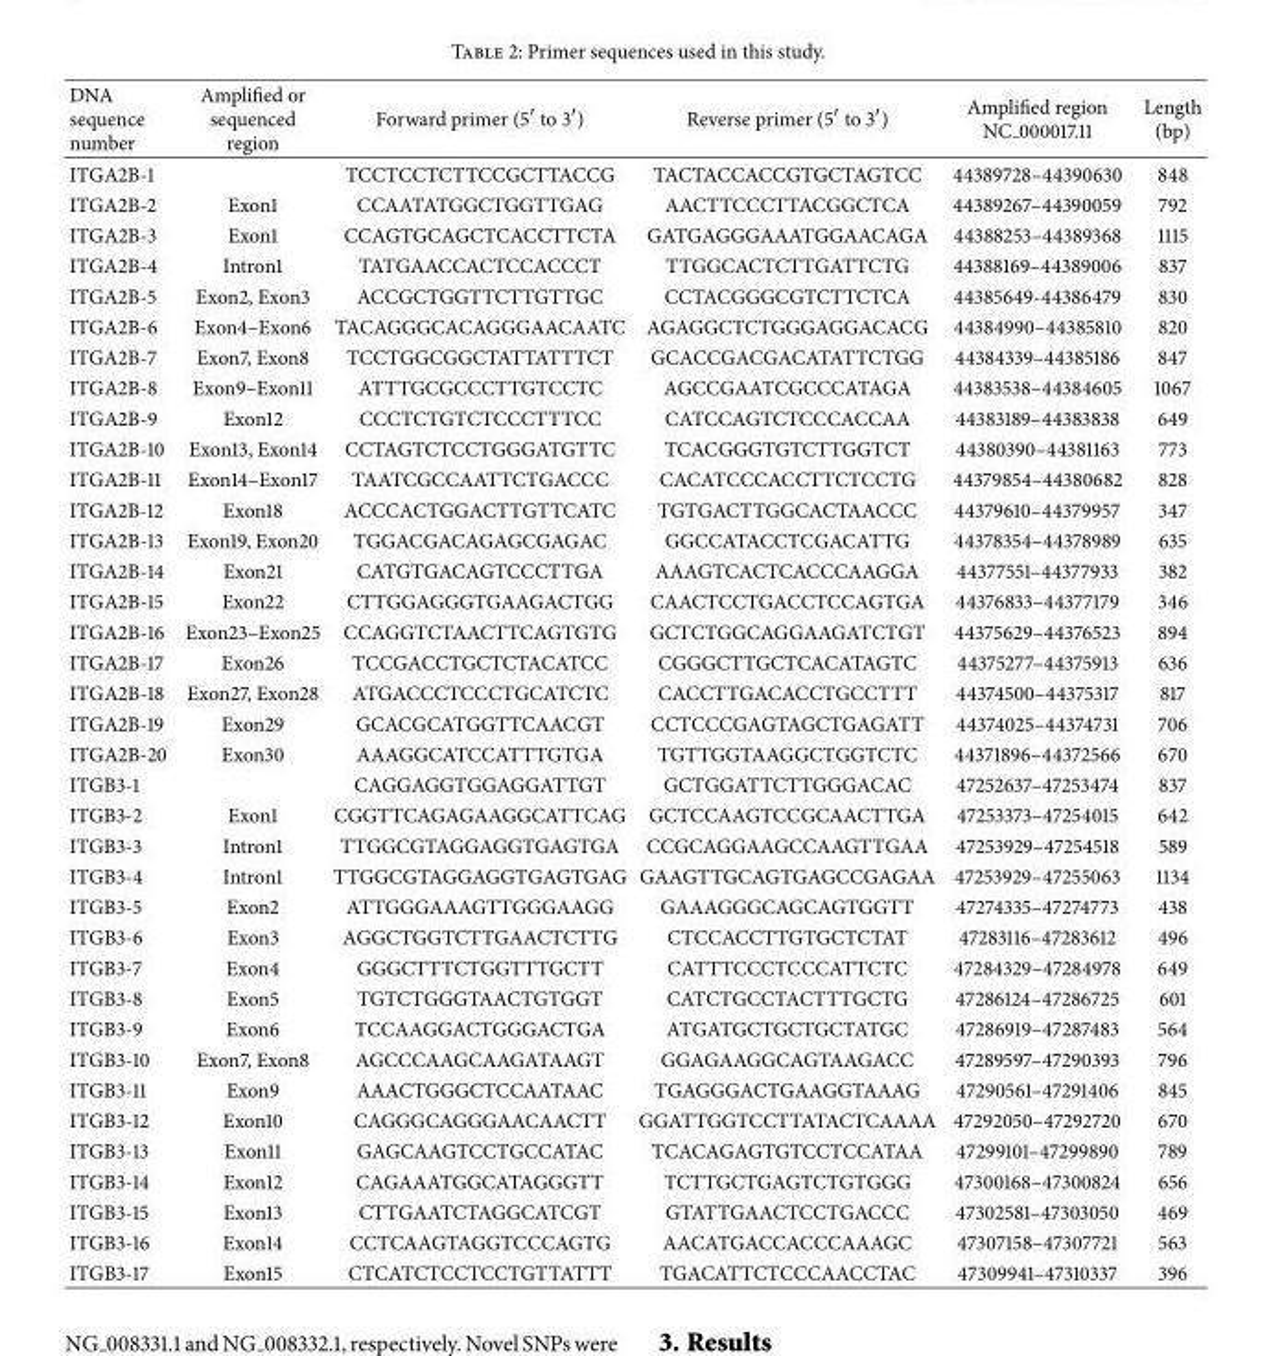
<table><thead><tr><td>DNA sequence number</td><td>Amplified or sequenced region</td><td>Forward primer (5′ to 3′)</td><td>Reverse primer (5′ to 3′)</td><td>Amplified region NC 000017.11</td><td>Length (bp)</td></tr></thead><tbody><tr><td>ITGA2B-1</td><td></td><td>TCCTCCTCTTCCGCTTACCG</td><td>TACTACCACCGTGCTAGTCC</td><td>44389728–44390630</td><td>848</td></tr><tr><td>ITGA2B-2</td><td>Exon1</td><td>CCAATATGGCTGGTTGAG</td><td>AACTTCCCTTACGGCTCA</td><td>44389267–44390059</td><td>792</td></tr><tr><td>ITGA2B-3</td><td>Exon1</td><td>CCAGTGCAGCTCACCTTCTA</td><td>GATGAGGGAAATGGAACAGA</td><td>44388253–44389368</td><td>1115</td></tr><tr><td>ITGA2B-4</td><td>Intron1</td><td>TATGAACCACTCCACCCT</td><td>TTGGCACTCTTGATTCTG</td><td>44388169–44389006</td><td>837</td></tr><tr><td>ITGA2B-5</td><td>Exon2, Exon3</td><td>ACCGCTGGTTCTTGTTGC</td><td>CCTACGGGCGTCTTCTCA</td><td>44385649-44386479</td><td>830</td></tr><tr><td>ITGA2B-6</td><td>Exon4–Exon6</td><td>TACAGGGCACAGGGAACAATC</td><td>AGAGGCTCTGGGAGGACACG</td><td>44384990–44385810</td><td>820</td></tr><tr><td>ITGA2B-7</td><td>Exon7, Exon8</td><td>TCCTGGCGGCTATTATTTCT</td><td>GCACCGACGACATATTCTGG</td><td>44384339–44385186</td><td>847</td></tr><tr><td>ITGA2B-8</td><td>Exon9–Exon11</td><td>ATTTGCGCCCTTGTCCTC</td><td>AGCCGAATCGCCCATAGA</td><td>44383538–44384605</td><td>1067</td></tr><tr><td>ITGA2B-9</td><td>Exon12</td><td>CCCTCTGTCTCCCTTTCC</td><td>CATCCAGTCTCCCACCAA</td><td>44383189–44383838</td><td>649</td></tr><tr><td>ITGA2B-10</td><td>Exon13, Exon14</td><td>CCTAGTCTCCTGGGATGTTC</td><td>TCACGGGTGTCTTGGTCT</td><td>44380390–44381163</td><td>773</td></tr><tr><td>ITGA2B-11</td><td>Exon14–Exon17</td><td>TAATCGCCAATTCTGACCC</td><td>CACATCCCACCTTCTCCTG</td><td>44379854–44380682</td><td>828</td></tr><tr><td>ITGA2B-12</td><td>Exon18</td><td>ACCCACTGGACTTGTTCATC</td><td>TGTGACTTGGCACTAACCC</td><td>44379610–44379957</td><td>347</td></tr><tr><td>ITGA2B-13</td><td>Exon19, Exon20</td><td>TGGACGACAGAGCGAGAC</td><td>GGCCATACCTCGACATTG</td><td>44378354–44378989</td><td>635</td></tr><tr><td>ITGA2B-14</td><td>Exon21</td><td>CATGTGACAGTCCCTTGA</td><td>AAAGTCACTCACCCAAGGA</td><td>44377551–44377933</td><td>382</td></tr><tr><td>ITGA2B-15</td><td>Exon22</td><td>CTTGGAGGGTGAAGACTGG</td><td>CAACTCCTGACCTCCAGTGA</td><td>44376833–44377179</td><td>346</td></tr><tr><td>ITGA2B-16</td><td>Exon23–Exon25</td><td>CCAGGTCTAACTTCAGTGTG</td><td>GCTCTGGCAGGAAGATCTGT</td><td>44375629–44376523</td><td>894</td></tr><tr><td>ITGA2B-17</td><td>Exon26</td><td>TCCGACCTGCTCTACATCC</td><td>CGGGCTTGCTCACATAGTC</td><td>44375277–44375913</td><td>636</td></tr><tr><td>ITGA2B-18</td><td>Exon27, Exon28</td><td>ATGACCCTCCCTGCATCTC</td><td>CACCTTGACACCTGCCTTT</td><td>44374500–44375317</td><td>817</td></tr><tr><td>ITGA2B-19</td><td>Exon29</td><td>GCACGCATGGTTCAACGT</td><td>CCTCCCGAGTAGCTGAGATT</td><td>44374025–44374731</td><td>706</td></tr><tr><td>ITGA2B-20</td><td>Exon30</td><td>AAAGGCATCCATTTGTGA</td><td>TGTTGGTAAGGCTGGTCTC</td><td>44371896–44372566</td><td>670</td></tr><tr><td>ITGB3-1</td><td></td><td>CAGGAGGTGGAGGATTGT</td><td>GCTGGATTCTTGGGACAC</td><td>47252637–47253474</td><td>837</td></tr><tr><td>ITGB3-2</td><td>Exon1</td><td>CGGTTCAGAGAAGGCATTCAG</td><td>GCTCCAAGTCCGCAACTTGA</td><td>47253373–47254015</td><td>642</td></tr><tr><td>ITGB3-3</td><td>Intron1</td><td>TTGGCGTAGGAGGTGAGTGA</td><td>CCGCAGGAAGCCAAGTTGAA</td><td>47253929–47254518</td><td>589</td></tr><tr><td>ITGB3-4</td><td>Intron1</td><td>TTGGCGTAGGAGGTGAGTGAG</td><td>GAAGTTGCAGTGAGCCGAGAA</td><td>47253929–47255063</td><td>1134</td></tr><tr><td>ITGB3-5</td><td>Exon2</td><td>ATTGGGAAAGTTGGGAAGG</td><td>GAAAGGGCAGCAGTGGTT</td><td>47274335–47274773</td><td>438</td></tr><tr><td>ITGB3-6</td><td>Exon3</td><td>AGGCTGGTCTTGAACTCTTG</td><td>CTCCACCTTGTGCTCTAT</td><td>47283116–47283612</td><td>496</td></tr><tr><td>ITGB3-7</td><td>Exon4</td><td>GGGCTTTCTGGTTTGCTT</td><td>CATTTCCCTCCCATTCTC</td><td>47284329–47284978</td><td>649</td></tr><tr><td>ITGB3-8</td><td>Exon5</td><td>TGTCTGGGTAACTGTGGT</td><td>CATCTGCCTACTTTGCTG</td><td>47286124–47286725</td><td>601</td></tr><tr><td>ITGB3-9</td><td>Exon6</td><td>TCCAAGGACTGGGACTGA</td><td>ATGATGCTGCTGCTATGC</td><td>47286919–47287483</td><td>564</td></tr><tr><td>ITGB3-10</td><td>Exon7, Exon8</td><td>AGCCCAAGCAAGATAAGT</td><td>GGAGAAGGCAGTAAGACC</td><td>47289597–47290393</td><td>796</td></tr><tr><td>ITGB3-11</td><td>Exon9</td><td>AAACTGGGCTCCAATAAC</td><td>TGAGGGACTGAAGGTAAAG</td><td>47290561–47291406</td><td>845</td></tr><tr><td>ITGB3-12</td><td>Exon10</td><td>CAGGGCAGGGAACAACTT</td><td>GGATTGGTCCTTATACTCAAAA</td><td>47292050–47292720</td><td>670</td></tr><tr><td>ITGB3-13</td><td>Exon11</td><td>GAGCAAGTCCTGCCATAC</td><td>TCACAGAGTGTCCTCCATAA</td><td>47299101–47299890</td><td>789</td></tr><tr><td>ITGB3-14</td><td>Exon12</td><td>CAGAAATGGCATAGGGTT</td><td>TCTTGCTGAGTCTGTGGG</td><td>47300168–47300824</td><td>656</td></tr><tr><td>ITGB3-15</td><td>Exon13</td><td>CTTGAATCTAGGCATCGT</td><td>GTATTGAACTCCTGACCC</td><td>47302581–47303050</td><td>469</td></tr><tr><td>ITGB3-16</td><td>Exon14</td><td>CCTCAAGTAGGTCCCAGTG</td><td>AACATGACCACCCAAAGC</td><td>47307158–47307721</td><td>563</td></tr><tr><td>ITGB3-17</td><td>Exon15</td><td>CTCATCTCCTCCTGTTATTT</td><td>TGACATTCTCCCAACCTAC</td><td>47309941–47310337</td><td>396</td></tr></tbody></table>